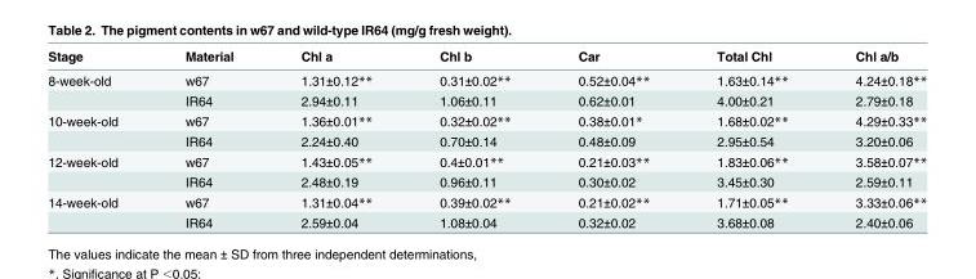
<table><thead><tr><td>Stage</td><td>Material</td><td>Chl a</td><td>Chl b</td><td>Car</td><td>Total Chl</td><td>Chl a/b</td></tr></thead><tbody><tr><td rowspan="2">8-week-old</td><td>w67</td><td>1.31±0.12**</td><td>0.31±0.02**</td><td>0.52±0.04**</td><td>1.63±0.14**</td><td>4.24±0.18**</td></tr><tr><td>IR64</td><td>2.94±0.11</td><td>1.06±0.11</td><td>0.62±0.01</td><td>4.00±0.21</td><td>2.79±0.18</td></tr><tr><td rowspan="2">10-week-old</td><td>w67</td><td>1.36±0.01**</td><td>0.32±0.02**</td><td>0.38±0.01*</td><td>1.68±0.02**</td><td>4.29±0.33**</td></tr><tr><td>IR64</td><td>2.24±0.40</td><td>0.70±0.14</td><td>0.48±0.09</td><td>2.95±0.54</td><td>3.20±0.06</td></tr><tr><td rowspan="2">12-week-old</td><td>w67</td><td>1.43±0.05**</td><td>0.4±0.01**</td><td>0.21±0.03**</td><td>1.83±0.06**</td><td>3.58±0.07**</td></tr><tr><td>IR64</td><td>2.48±0.19</td><td>0.96±0.11</td><td>0.30±0.02</td><td>3.45±0.30</td><td>2.59±0.11</td></tr><tr><td rowspan="2">14-week-old</td><td>w67</td><td>1.31±0.04**</td><td>0.39±0.02**</td><td>0.21±0.02**</td><td>1.71±0.05**</td><td>3.33±0.06**</td></tr><tr><td>IR64</td><td>2.59±0.04</td><td>1.08±0.04</td><td>0.32±0.02</td><td>3.68±0.08</td><td>2.40±0.06</td></tr></tbody></table>